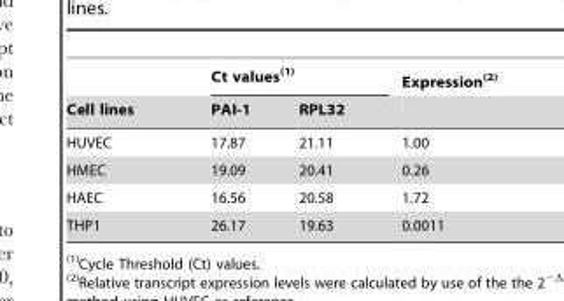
<table><thead><tr><td rowspan="2">Cell lines</td><td colspan="2">Ct values(1)</td><td rowspan="2">Expression(2)</td></tr><tr><td>PAI-1</td><td>RPL32</td></tr></thead><tbody><tr><td>HUVEC</td><td>17.87</td><td>21.11</td><td>1.00</td></tr><tr><td>HMEC</td><td>19.09</td><td>20.41</td><td>0.26</td></tr><tr><td>HAEC</td><td>16.56</td><td>20.58</td><td>1.72</td></tr><tr><td>THP1</td><td>26.17</td><td>19.63</td><td>0.0011</td></tr></tbody></table>